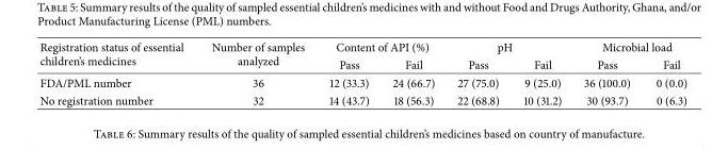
<table><thead><tr><td rowspan="2">Registration status of essential children’s medicines</td><td rowspan="2">Number of samples analyzed</td><td colspan="2">Content of API (%)</td><td colspan="2">pH</td><td colspan="2">Microbial load</td></tr><tr><td>Pass</td><td>Fail</td><td>Pass</td><td>Fail</td><td>Pass</td><td>Fail</td></tr></thead><tbody><tr><td>FDA/PML number</td><td>36</td><td>12 (33.3)</td><td>24 (66.7)</td><td>27 (75.0)</td><td>9 (25.0)</td><td>36 (100.0)</td><td>0 (0.0)</td></tr><tr><td>No registration number</td><td>32</td><td>14 (43.7)</td><td>18 (56.3)</td><td>22 (68.8)</td><td>10 (31.2)</td><td>30 (93.7)</td><td>0 (6.3)</td></tr></tbody></table>